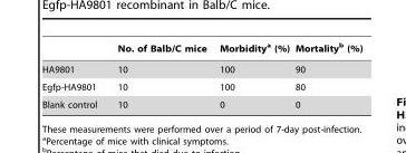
<table><thead><tr><td></td><td>No. of Balb/C mice</td><td>Morbidity<sup>a</sup> (%)</td><td>Mortality<sup>b</sup> (%)</td></tr></thead><tbody><tr><td>HA9801</td><td>10</td><td>100</td><td>90</td></tr><tr><td>Egfp-HA9801</td><td>10</td><td>100</td><td>80</td></tr><tr><td>Blank control</td><td>10</td><td>0</td><td>0</td></tr></tbody></table>